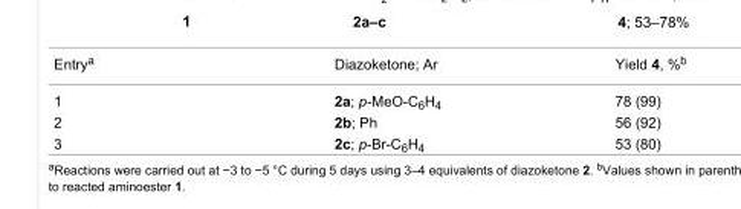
<table><tbody><tr><td>Entry<sup>a</sup></td><td>Diazoketone; Ar</td><td>Yield 4, %<sup>b</sup></td></tr><tr><td>1</td><td>2a; p-MeO-C<sub>6</sub>H<sub>4</sub></td><td>78 (99)</td></tr><tr><td>2</td><td>2b; Ph</td><td>56 (92)</td></tr><tr><td>3</td><td>2c; p-Br-C<sub>6</sub>H<sub>4</sub></td><td>53 (80)</td></tr></tbody></table>